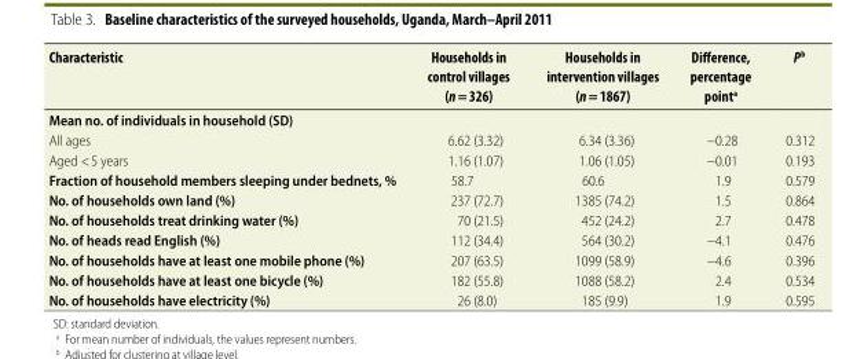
<table><thead><tr><td>Characteristic</td><td>Households in control villages (n = 326)</td><td>Households in intervention villages (n = 1867)</td><td>Difference, percentage point<sup>a</sup></td><td>P <sup>b</sup></td></tr></thead><tbody><tr><td colspan="5">Mean no. of individuals in household (SD)</td></tr><tr><td>All ages</td><td>6.62 (3.32)</td><td>6.34 (3.36)</td><td>−0.28</td><td>0.312</td></tr><tr><td>Aged &lt; 5 years</td><td>1.16 (1.07)</td><td>1.06 (1.05)</td><td>−0.01</td><td>0.193</td></tr><tr><td>Fraction of household members sleeping under bednets, %</td><td>58.7</td><td>60.6</td><td>1.9</td><td>0.579</td></tr><tr><td>No. of households own land (%)</td><td>237 (72.7)</td><td>1385 (74.2)</td><td>1.5</td><td>0.864</td></tr><tr><td>No. of households treat drinking water (%)</td><td>70 (21.5)</td><td>452 (24.2)</td><td>2.7</td><td>0.478</td></tr><tr><td>No. of heads read English (%)</td><td>112 (34.4)</td><td>564 (30.2)</td><td>−4.1</td><td>0.476</td></tr><tr><td>No. of households have at least one mobile phone (%)</td><td>207 (63.5)</td><td>1099 (58.9)</td><td>−4.6</td><td>0.396</td></tr><tr><td>No. of households have at least one bicycle (%)</td><td>182 (55.8)</td><td>1088 (58.2)</td><td>2.4</td><td>0.534</td></tr><tr><td>No. of households have electricity (%)</td><td>26 (8.0)</td><td>185 (9.9)</td><td>1.9</td><td>0.595</td></tr></tbody></table>